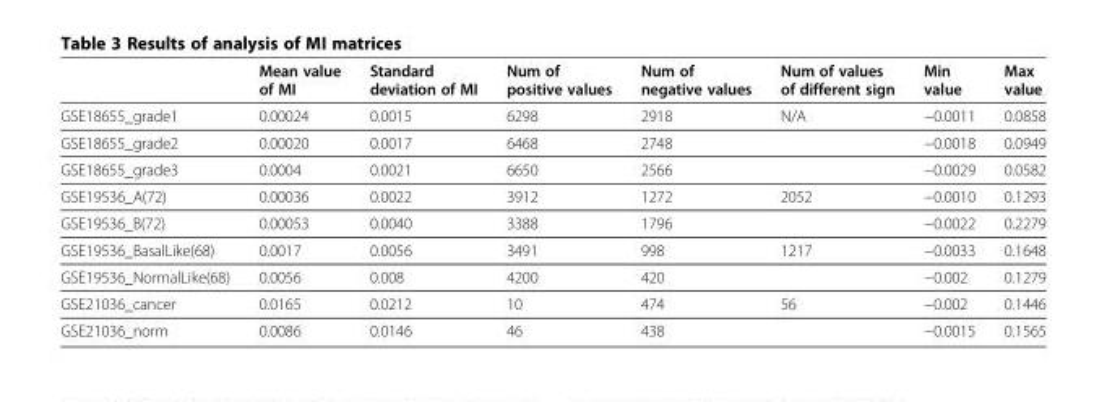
<table><thead><tr><td></td><td>Mean value of MI</td><td>Standard deviation of MI</td><td>Num of positive values</td><td>Num of negative values</td><td>Num of values of different sign</td><td>Min value</td><td>Max value</td></tr></thead><tbody><tr><td>GSE18655_grade1</td><td>0.00024</td><td>0.0015</td><td>6298</td><td>2918</td><td>N/A</td><td>−0.0011</td><td>0.0858</td></tr><tr><td>GSE18655_grade2</td><td>0.00020</td><td>0.0017</td><td>6468</td><td>2748</td><td></td><td>−0.0018</td><td>0.0949</td></tr><tr><td>GSE18655_grade3</td><td>0.0004</td><td>0.0021</td><td>6650</td><td>2566</td><td></td><td>−0.0029</td><td>0.0582</td></tr><tr><td>GSE19536_A(72)</td><td>0.00036</td><td>0.0022</td><td>3912</td><td>1272</td><td>2052</td><td>−0.0010</td><td>0.1293</td></tr><tr><td>GSE19536_B(72)</td><td>0.00053</td><td>0.0040</td><td>3388</td><td>1796</td><td></td><td>−0.0022</td><td>0.2279</td></tr><tr><td>GSE19536_BasalLike(68)</td><td>0.0017</td><td>0.0056</td><td>3491</td><td>998</td><td>1217</td><td>−0.0033</td><td>0.1648</td></tr><tr><td>GSE19536_NormalLike(68)</td><td>0.0056</td><td>0.008</td><td>4200</td><td>420</td><td></td><td>−0.002</td><td>0.1279</td></tr><tr><td>GSE21036_cancer</td><td>0.0165</td><td>0.0212</td><td>10</td><td>474</td><td>56</td><td>−0.002</td><td>0.1446</td></tr><tr><td>GSE21036_norm</td><td>0.0086</td><td>0.0146</td><td>46</td><td>438</td><td></td><td>−0.0015</td><td>0.1565</td></tr></tbody></table>